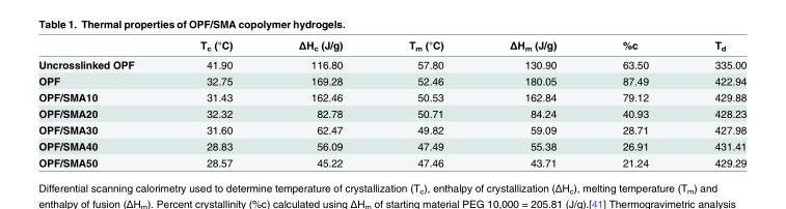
<table><thead><tr><td></td><td>T<sub>c</sub> (°C)</td><td>ΔH<sub>c</sub> (J/g)</td><td>T<sub>m</sub> (°C)</td><td>ΔH<sub>m</sub> (J/g)</td><td>%c</td><td>T<sub>d</sub></td></tr></thead><tbody><tr><td>Uncrosslinked OPF</td><td>41.90</td><td>116.80</td><td>57.80</td><td>130.90</td><td>63.50</td><td>335.00</td></tr><tr><td>OPF</td><td>32.75</td><td>169.28</td><td>52.46</td><td>180.05</td><td>87.49</td><td>422.94</td></tr><tr><td>OPF/SMA10</td><td>31.43</td><td>162.46</td><td>50.53</td><td>162.84</td><td>79.12</td><td>429.88</td></tr><tr><td>OPF/SMA20</td><td>32.32</td><td>82.78</td><td>50.71</td><td>84.24</td><td>40.93</td><td>428.23</td></tr><tr><td>OPF/SMA30</td><td>31.60</td><td>62.47</td><td>49.82</td><td>59.09</td><td>28.71</td><td>427.98</td></tr><tr><td>OPF/SMA40</td><td>28.83</td><td>56.09</td><td>47.49</td><td>55.38</td><td>26.91</td><td>431.41</td></tr><tr><td>OPF/SMA50</td><td>28.57</td><td>45.22</td><td>47.46</td><td>43.71</td><td>21.24</td><td>429.29</td></tr></tbody></table>